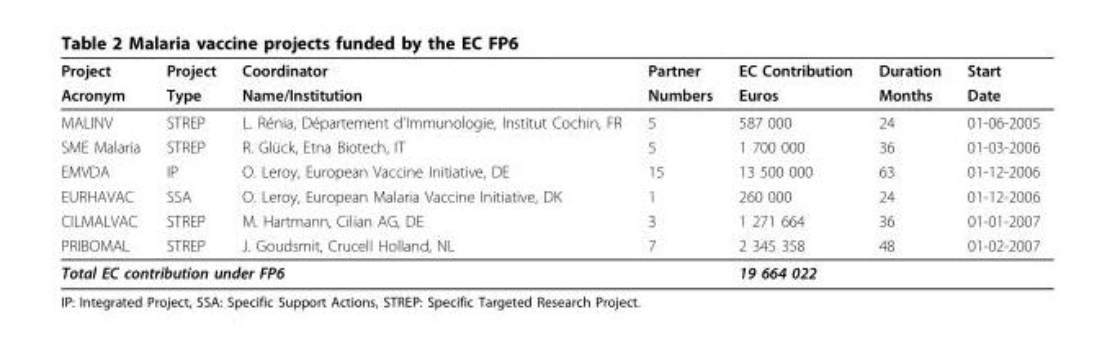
<table><thead><tr><td rowspan="2">Project Acronym</td><td rowspan="2">Project Type</td><td rowspan="2">Coordinator Name/Institution</td><td rowspan="2">Partner Numbers</td><td rowspan="2">EC Contribution Euros</td><td rowspan="2">Duration Months</td><td rowspan="2">Start Date</td></tr><tr></tr></thead><tbody><tr><td>MALINV</td><td>STREP</td><td>L. Rénia, Département d’Immunologie, Institut Cochin, FR</td><td>5</td><td>587 000</td><td>24</td><td>01-06-2005</td></tr><tr><td>SME Malaria</td><td>STREP</td><td>R. Glück, Etna Biotech, IT</td><td>5</td><td>1 700 000</td><td>36</td><td>01-03-2006</td></tr><tr><td>EMVDA</td><td>IP</td><td>O. Leroy, European Vaccine Initiative, DE</td><td>15</td><td>13 500 000</td><td>63</td><td>01-12-2006</td></tr><tr><td>EURHAVAC</td><td>SSA</td><td>O. Leroy, European Malaria Vaccine Initiative, DK</td><td>1</td><td>260 000</td><td>24</td><td>01-12-2006</td></tr><tr><td>CILMALVAC</td><td>STREP</td><td>M. Hartmann, Cilian AG, DE</td><td>3</td><td>1 271 664</td><td>36</td><td>01-01-2007</td></tr><tr><td>PRIBOMAL</td><td>STREP</td><td>J. Goudsmit, Crucell Holland, NL</td><td>7</td><td>2 345 358</td><td>48</td><td>01-02-2007</td></tr><tr><td colspan="3">Total EC contribution under FP6</td><td></td><td>19 664 022</td><td></td><td></td></tr></tbody></table>